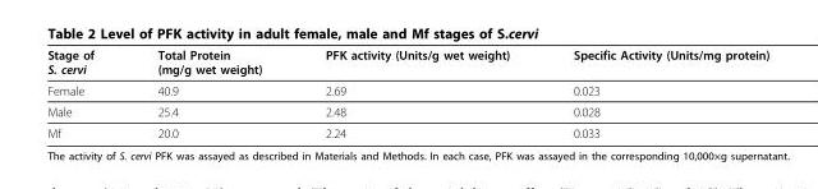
<table><thead><tr><td>Stage of S. cervi</td><td>Total Protein (mg/g wet weight)</td><td>PFK activity (Units/g wet weight)</td><td>Specific Activity (Units/mg protein)</td></tr></thead><tbody><tr><td>Female</td><td>40.9</td><td>2.69</td><td>0.023</td></tr><tr><td>Male</td><td>25.4</td><td>2.48</td><td>0.028</td></tr><tr><td>Mf</td><td>20.0</td><td>2.24</td><td>0.033</td></tr></tbody></table>